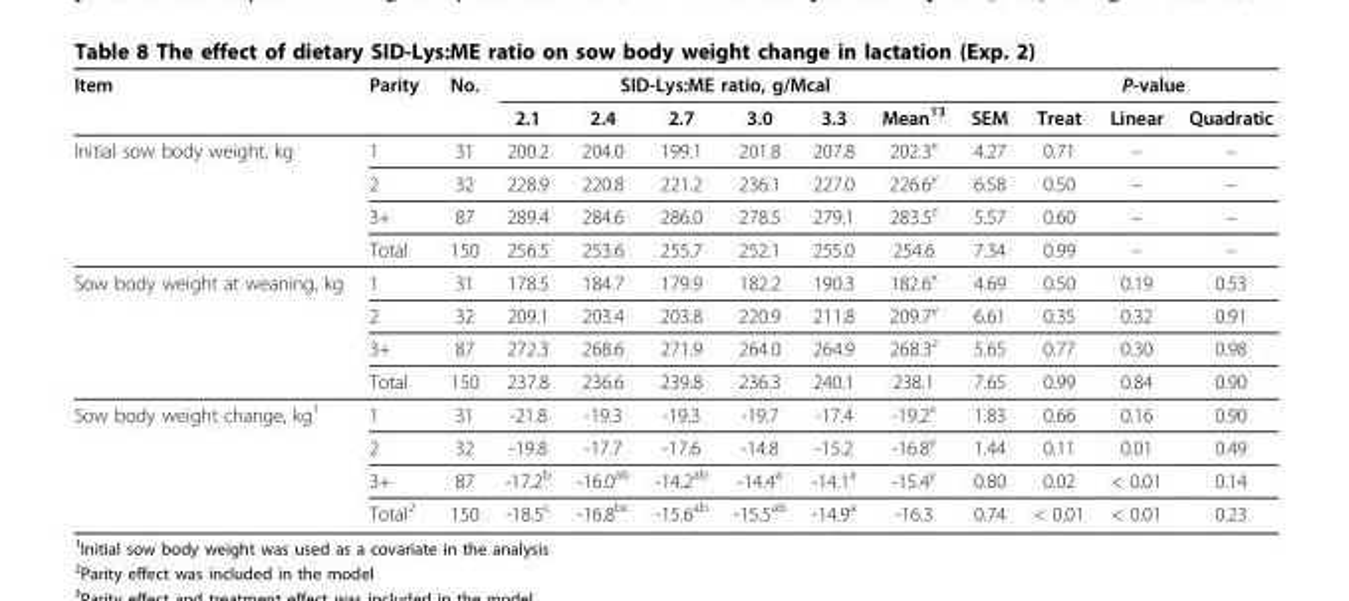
<table><thead><tr><td rowspan="2">Item</td><td rowspan="2">Parity</td><td rowspan="2">No.</td><td colspan="6">SID-Lys:ME ratio, g/Mcal</td><td rowspan="2">SEM</td><td colspan="3">P-value</td></tr><tr><td>2.1</td><td>2.4</td><td>2.7</td><td>3.0</td><td>3.3</td><td>Mean<sup>13</sup></td><td>Treat</td><td>Linear</td><td>Quadratic</td></tr></thead><tbody><tr><td rowspan="4">Initial sow body weight, kg</td><td>1</td><td>31</td><td>200.2</td><td>204.0</td><td>199.1</td><td>201.8</td><td>207.8</td><td>202.3<sup>x</sup></td><td>4.27</td><td>0.71</td><td>–</td><td>–</td></tr><tr><td>2</td><td>32</td><td>228.9</td><td>220.8</td><td>221.2</td><td>236.1</td><td>227.0</td><td>226.6<sup>y</sup></td><td>6.58</td><td>0.50</td><td>–</td><td>–</td></tr><tr><td>3+</td><td>87</td><td>289.4</td><td>284.6</td><td>286.0</td><td>278.5</td><td>279.1</td><td>283.5<sup>z</sup></td><td>5.57</td><td>0.60</td><td>–</td><td>–</td></tr><tr><td>Total</td><td>150</td><td>256.5</td><td>253.6</td><td>255.7</td><td>252.1</td><td>255.0</td><td>254.6</td><td>7.34</td><td>0.99</td><td>–</td><td>–</td></tr><tr><td rowspan="4">Sow body weight at weaning, kg</td><td>1</td><td>31</td><td>178.5</td><td>184.7</td><td>179.9</td><td>182.2</td><td>190.3</td><td>182.6<sup>x</sup></td><td>4.69</td><td>0.50</td><td>0.19</td><td>0.53</td></tr><tr><td>2</td><td>32</td><td>209.1</td><td>203.4</td><td>203.8</td><td>220.9</td><td>211.8</td><td>209.7<sup>y</sup></td><td>6.61</td><td>0.35</td><td>0.32</td><td>0.91</td></tr><tr><td>3+</td><td>87</td><td>272.3</td><td>268.6</td><td>271.9</td><td>264.0</td><td>264.9</td><td>268.3<sup>z</sup></td><td>5.65</td><td>0.77</td><td>0.30</td><td>0.98</td></tr><tr><td>Total</td><td>150</td><td>237.8</td><td>236.6</td><td>239.8</td><td>236.3</td><td>240.1</td><td>238.1</td><td>7.65</td><td>0.99</td><td>0.84</td><td>0.90</td></tr><tr><td rowspan="4">Sow body weight change, kg<sup>1</sup></td><td>1</td><td>31</td><td>-21.8</td><td>-19.3</td><td>-19.3</td><td>-19.7</td><td>-17.4</td><td>-19.2<sup>x</sup></td><td>1.83</td><td>0.66</td><td>0.16</td><td>0.90</td></tr><tr><td>2</td><td>32</td><td>-19.8</td><td>-17.7</td><td>-17.6</td><td>-14.8</td><td>-15.2</td><td>-16.8<sup>y</sup></td><td>1.44</td><td>0.11</td><td>0.01</td><td>0.49</td></tr><tr><td>3+</td><td>87</td><td>-17.2<sup>b</sup></td><td>-16.0<sup>ab</sup></td><td>-14.2<sup>ab</sup></td><td>-14.4<sup>a</sup></td><td>-14.1<sup>a</sup></td><td>-15.4<sup>y</sup></td><td>0.80</td><td>0.02</td><td>&lt; 0.01</td><td>0.14</td></tr><tr><td>Total<sup>2</sup></td><td>150</td><td>-18.5<sup>c</sup></td><td>-16.8<sup>bc</sup></td><td>-15.6<sup>ab</sup></td><td>-15.5<sup>ab</sup></td><td>-14.9<sup>a</sup></td><td>-16.3</td><td>0.74</td><td>&lt; 0.01</td><td>&lt; 0.01</td><td>0.23</td></tr></tbody></table>